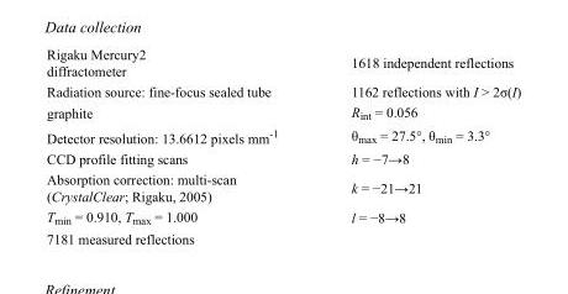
<table><tbody><tr><td>Rigaku Mercury2 diffractometer</td><td>1618 independent reflections</td></tr><tr><td>Radiation source: fine-focus sealed tube</td><td>1162 reflections with I &gt; 2σ(I)</td></tr><tr><td>graphite</td><td>R<sub>int</sub> = 0.056</td></tr><tr><td>Detector resolution: 13.6612 pixels mm<sup>-1</sup></td><td>θ<sub>max</sub> = 27.5°, θ<sub>min</sub> = 3.3°</td></tr><tr><td>CCD profile fitting scans</td><td>h = −7→8</td></tr><tr><td>Absorption correction: multi-scan (CrystalClear; Rigaku, 2005)</td><td>k = −21→21</td></tr><tr><td>T<sub>min</sub> = 0.910, T<sub>max</sub> = 1.000</td><td>l = −8→8</td></tr><tr><td>7181 measured reflections</td><td></td></tr></tbody></table>